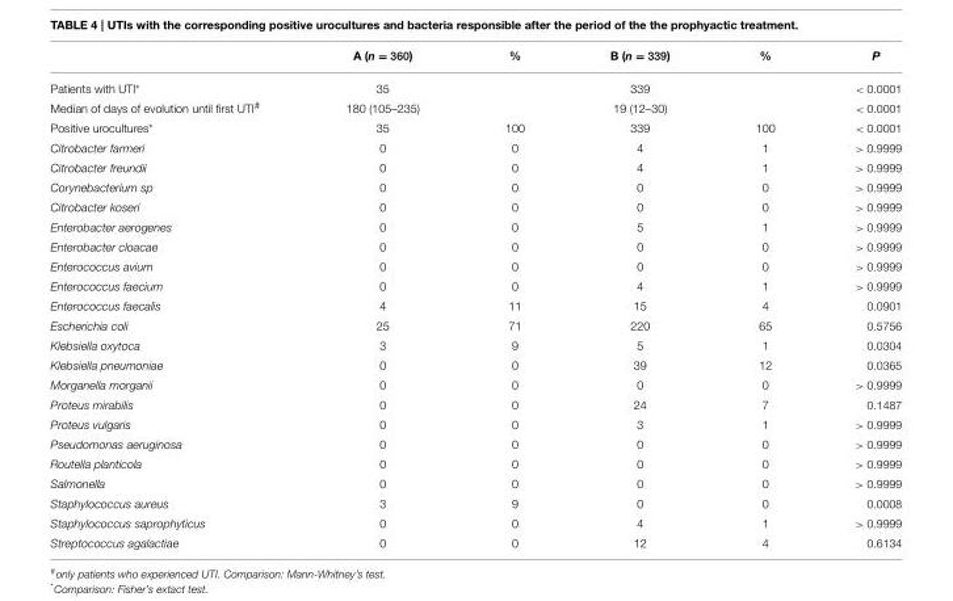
<table><thead><tr><td></td><td>A (n = 360)</td><td>%</td><td>B (n = 339)</td><td>%</td><td>P</td></tr></thead><tbody><tr><td>Patients with UTI*</td><td>35</td><td></td><td>339</td><td></td><td>&lt; 0.0001</td></tr><tr><td>Median of days of evolution until first UTI<sup>#</sup></td><td>180 (105–235)</td><td></td><td>19 (12–30)</td><td></td><td>&lt; 0.0001</td></tr><tr><td>Positive urocultures*</td><td>35</td><td>100</td><td>339</td><td>100</td><td>&lt; 0.0001</td></tr><tr><td>Citrobacter farmeri</td><td>0</td><td>0</td><td>4</td><td>1</td><td>&gt; 0.9999</td></tr><tr><td>Citrobacter freundii</td><td>0</td><td>0</td><td>4</td><td>1</td><td>&gt; 0.9999</td></tr><tr><td>Corynebacterium sp</td><td>0</td><td>0</td><td>0</td><td>0</td><td>&gt; 0.9999</td></tr><tr><td>Citrobacter koseri</td><td>0</td><td>0</td><td>0</td><td>0</td><td>&gt; 0.9999</td></tr><tr><td>Enterobacter aerogenes</td><td>0</td><td>0</td><td>5</td><td>1</td><td>&gt; 0.9999</td></tr><tr><td>Enterobacter cloacae</td><td>0</td><td>0</td><td>0</td><td>0</td><td>&gt; 0.9999</td></tr><tr><td>Enterococcus avium</td><td>0</td><td>0</td><td>0</td><td>0</td><td>&gt; 0.9999</td></tr><tr><td>Enterococcus faecium</td><td>0</td><td>0</td><td>4</td><td>1</td><td>&gt; 0.9999</td></tr><tr><td>Enterococcus faecalis</td><td>4</td><td>11</td><td>15</td><td>4</td><td>0.0901</td></tr><tr><td>Escherichia coli</td><td>25</td><td>71</td><td>220</td><td>65</td><td>0.5756</td></tr><tr><td>Klebsiella oxytoca</td><td>3</td><td>9</td><td>5</td><td>1</td><td>0.0304</td></tr><tr><td>Klebsiella pneumoniae</td><td>0</td><td>0</td><td>39</td><td>12</td><td>0.0365</td></tr><tr><td>Morganella morganii</td><td>0</td><td>0</td><td>0</td><td>0</td><td>&gt; 0.9999</td></tr><tr><td>Proteus mirabilis</td><td>0</td><td>0</td><td>24</td><td>7</td><td>0.1487</td></tr><tr><td>Proteus vulgaris</td><td>0</td><td>0</td><td>3</td><td>1</td><td>&gt; 0.9999</td></tr><tr><td>Pseudomonas aeruginosa</td><td>0</td><td>0</td><td>0</td><td>0</td><td>&gt; 0.9999</td></tr><tr><td>Routella planticola</td><td>0</td><td>0</td><td>0</td><td>0</td><td>&gt; 0.9999</td></tr><tr><td>Salmonella</td><td>0</td><td>0</td><td>0</td><td>0</td><td>&gt; 0.9999</td></tr><tr><td>Staphylococcus aureus</td><td>3</td><td>9</td><td>0</td><td>0</td><td>0.0008</td></tr><tr><td>Staphylococcus saprophyticus</td><td>0</td><td>0</td><td>4</td><td>1</td><td>&gt; 0.9999</td></tr><tr><td>Streptococcus agalactiae</td><td>0</td><td>0</td><td>12</td><td>4</td><td>0.6134</td></tr></tbody></table>